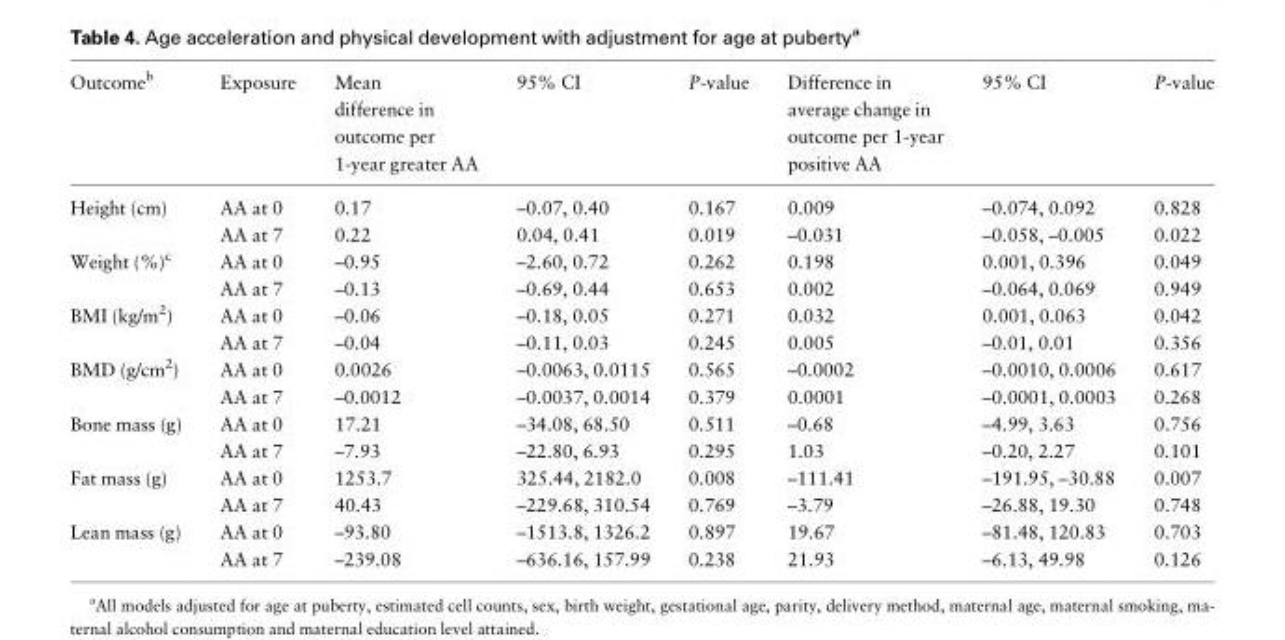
<table><thead><tr><td>Outcome<sup>b</sup></td><td>Exposure</td><td>Mean difference in outcome per 1-year greater AA</td><td>95% CI</td><td>P-value</td><td>Difference in average change in outcome per 1-year positive AA</td><td>95% CI</td><td>P-value</td></tr></thead><tbody><tr><td rowspan="2">Height (cm)</td><td>AA at 0</td><td>0.17</td><td>–0.07, 0.40</td><td>0.167</td><td>0.009</td><td>–0.074, 0.092</td><td>0.828</td></tr><tr><td>AA at 7</td><td>0.22</td><td>0.04, 0.41</td><td>0.019</td><td>–0.031</td><td>–0.058, –0.005</td><td>0.022</td></tr><tr><td rowspan="2">Weight (%)<sup>c</sup></td><td>AA at 0</td><td>–0.95</td><td>–2.60, 0.72</td><td>0.262</td><td>0.198</td><td>0.001, 0.396</td><td>0.049</td></tr><tr><td>AA at 7</td><td>–0.13</td><td>–0.69, 0.44</td><td>0.653</td><td>0.002</td><td>–0.064, 0.069</td><td>0.949</td></tr><tr><td rowspan="2">BMI (kg/m<sup>2</sup>)</td><td>AA at 0</td><td>–0.06</td><td>–0.18, 0.05</td><td>0.271</td><td>0.032</td><td>0.001, 0.063</td><td>0.042</td></tr><tr><td>AA at 7</td><td>–0.04</td><td>–0.11, 0.03</td><td>0.245</td><td>0.005</td><td>–0.01, 0.01</td><td>0.356</td></tr><tr><td rowspan="2">BMD (g/cm<sup>2</sup>)</td><td>AA at 0</td><td>0.0026</td><td>–0.0063, 0.0115</td><td>0.565</td><td>–0.0002</td><td>–0.0010, 0.0006</td><td>0.617</td></tr><tr><td>AA at 7</td><td>–0.0012</td><td>–0.0037, 0.0014</td><td>0.379</td><td>0.0001</td><td>–0.0001, 0.0003</td><td>0.268</td></tr><tr><td rowspan="2">Bone mass (g)</td><td>AA at 0</td><td>17.21</td><td>–34.08, 68.50</td><td>0.511</td><td>–0.68</td><td>–4.99, 3.63</td><td>0.756</td></tr><tr><td>AA at 7</td><td>–7.93</td><td>–22.80, 6.93</td><td>0.295</td><td>1.03</td><td>–0.20, 2.27</td><td>0.101</td></tr><tr><td rowspan="2">Fat mass (g)</td><td>AA at 0</td><td>1253.7</td><td>325.44, 2182.0</td><td>0.008</td><td>–111.41</td><td>–191.95, –30.88</td><td>0.007</td></tr><tr><td>AA at 7</td><td>40.43</td><td>–229.68, 310.54</td><td>0.769</td><td>–3.79</td><td>–26.88, 19.30</td><td>0.748</td></tr><tr><td rowspan="2">Lean mass (g)</td><td>AA at 0</td><td>–93.80</td><td>–1513.8, 1326.2</td><td>0.897</td><td>19.67</td><td>–81.48, 120.83</td><td>0.703</td></tr><tr><td>AA at 7</td><td>–239.08</td><td>–636.16, 157.99</td><td>0.238</td><td>21.93</td><td>–6.13, 49.98</td><td>0.126</td></tr></tbody></table>